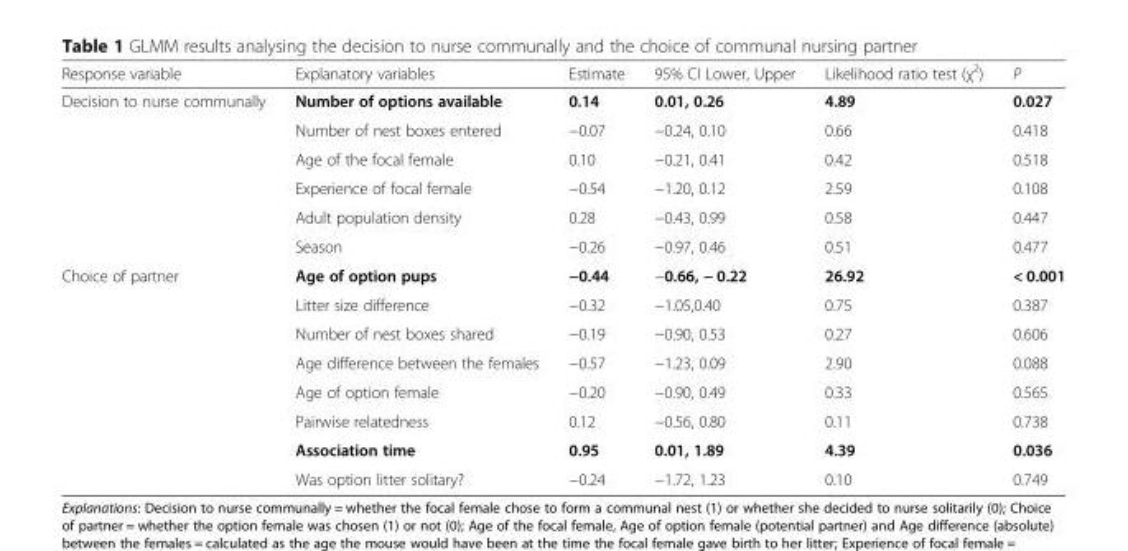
<table><thead><tr><td>Response variable</td><td>Explanatory variables</td><td>Estimate</td><td>95% CI Lower, Upper</td><td>Likelihood ratio test (χ<sup>2</sup>)</td><td>P</td></tr></thead><tbody><tr><td rowspan="6">Decision to nurse communally</td><td>Number of options available</td><td>0.14</td><td>0.01, 0.26</td><td>4.89</td><td>0.027</td></tr><tr><td>Number of nest boxes entered</td><td>−0.07</td><td>−0.24, 0.10</td><td>0.66</td><td>0.418</td></tr><tr><td>Age of the focal female</td><td>0.10</td><td>−0.21, 0.41</td><td>0.42</td><td>0.518</td></tr><tr><td>Experience of focal female</td><td>−0.54</td><td>−1.20, 0.12</td><td>2.59</td><td>0.108</td></tr><tr><td>Adult population density</td><td>0.28</td><td>−0.43, 0.99</td><td>0.58</td><td>0.447</td></tr><tr><td>Season</td><td>−0.26</td><td>−0.97, 0.46</td><td>0.51</td><td>0.477</td></tr><tr><td rowspan="8">Choice of partner</td><td>Age of option pups</td><td>−0.44</td><td>−0.66, − 0.22</td><td>26.92</td><td>&lt; 0.001</td></tr><tr><td>Litter size difference</td><td>−0.32</td><td>−1.05,0.40</td><td>0.75</td><td>0.387</td></tr><tr><td>Number of nest boxes shared</td><td>−0.19</td><td>−0.90, 0.53</td><td>0.27</td><td>0.606</td></tr><tr><td>Age difference between the females</td><td>−0.57</td><td>−1.23, 0.09</td><td>2.90</td><td>0.088</td></tr><tr><td>Age of option female</td><td>−0.20</td><td>−0.90, 0.49</td><td>0.33</td><td>0.565</td></tr><tr><td>Pairwise relatedness</td><td>0.12</td><td>−0.56, 0.80</td><td>0.11</td><td>0.738</td></tr><tr><td>Association time</td><td>0.95</td><td>0.01, 1.89</td><td>4.39</td><td>0.036</td></tr><tr><td>Was option litter solitary?</td><td>−0.24</td><td>−1.72, 1.23</td><td>0.10</td><td>0.749</td></tr></tbody></table>